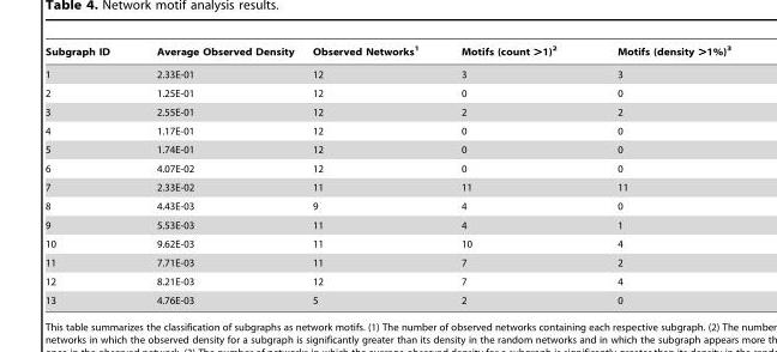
<table><thead><tr><td>Subgraph ID</td><td>Average Observed Density</td><td>Observed Networks<sup>1</sup></td><td>Motifs (count &gt;1)<sup>2</sup></td><td>Motifs (density &gt;1%)<sup>3</sup></td></tr></thead><tbody><tr><td>1</td><td>2.33E-01</td><td>12</td><td>3</td><td>3</td></tr><tr><td>2</td><td>1.25E-01</td><td>12</td><td>0</td><td>0</td></tr><tr><td>3</td><td>2.55E-01</td><td>12</td><td>2</td><td>2</td></tr><tr><td>4</td><td>1.17E-01</td><td>12</td><td>0</td><td>0</td></tr><tr><td>5</td><td>1.74E-01</td><td>12</td><td>0</td><td>0</td></tr><tr><td>6</td><td>4.07E-02</td><td>12</td><td>0</td><td>0</td></tr><tr><td>7</td><td>2.33E-02</td><td>11</td><td>11</td><td>11</td></tr><tr><td>8</td><td>4.43E-03</td><td>9</td><td>4</td><td>0</td></tr><tr><td>9</td><td>5.53E-03</td><td>11</td><td>4</td><td>1</td></tr><tr><td>10</td><td>9.62E-03</td><td>11</td><td>10</td><td>4</td></tr><tr><td>11</td><td>7.71E-03</td><td>11</td><td>7</td><td>2</td></tr><tr><td>12</td><td>8.21E-03</td><td>12</td><td>7</td><td>4</td></tr><tr><td>13</td><td>4.76E-03</td><td>5</td><td>2</td><td>0</td></tr></tbody></table>